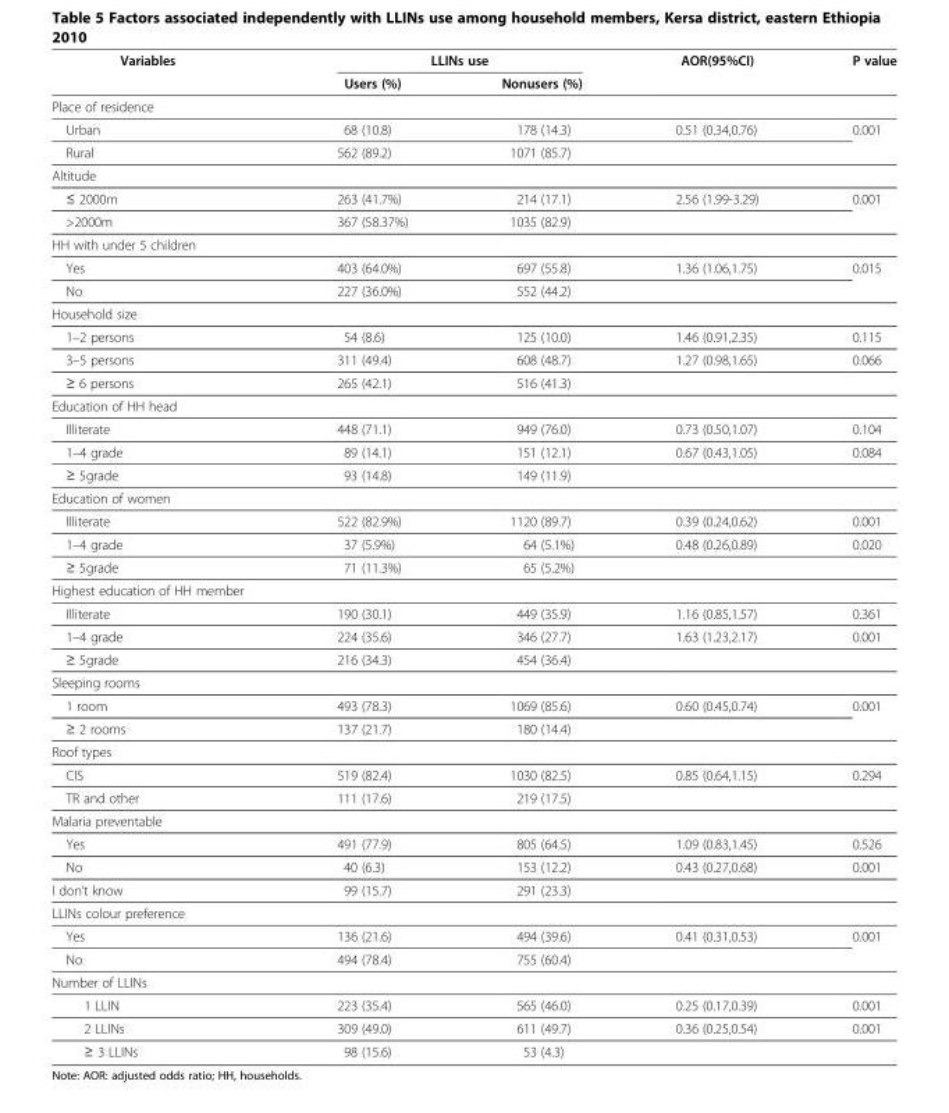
<table><thead><tr><td rowspan="2">Variables</td><td colspan="2">LLINs use</td><td rowspan="2">AOR(95%CI)</td><td rowspan="2">P value</td></tr><tr><td>Users (%)</td><td>Nonusers (%)</td></tr></thead><tbody><tr><td colspan="5">Place of residence</td></tr><tr><td>Urban</td><td>68 (10.8)</td><td>178 (14.3)</td><td>0.51 (0.34,0.76)</td><td>0.001</td></tr><tr><td>Rural</td><td>562 (89.2)</td><td>1071 (85.7)</td><td></td><td></td></tr><tr><td colspan="5">Altitude</td></tr><tr><td>≤ 2000m</td><td>263 (41.7%)</td><td>214 (17.1)</td><td>2.56 (1.99-3.29)</td><td>0.001</td></tr><tr><td>&gt;2000m</td><td>367 (58.37%)</td><td>1035 (82.9)</td><td></td><td></td></tr><tr><td colspan="5">HH with under 5 children</td></tr><tr><td>Yes</td><td>403 (64.0%)</td><td>697 (55.8)</td><td>1.36 (1.06,1.75)</td><td>0.015</td></tr><tr><td>No</td><td>227 (36.0%)</td><td>552 (44.2)</td><td></td><td></td></tr><tr><td colspan="5">Household size</td></tr><tr><td>1–2 persons</td><td>54 (8.6)</td><td>125 (10.0)</td><td>1.46 (0.91,2.35)</td><td>0.115</td></tr><tr><td>3–5 persons</td><td>311 (49.4)</td><td>608 (48.7)</td><td>1.27 (0.98,1.65)</td><td>0.066</td></tr><tr><td>≥ 6 persons</td><td>265 (42.1)</td><td>516 (41.3)</td><td></td><td></td></tr><tr><td colspan="5">Education of HH head</td></tr><tr><td>Illiterate</td><td>448 (71.1)</td><td>949 (76.0)</td><td>0.73 (0.50,1.07)</td><td>0.104</td></tr><tr><td>1–4 grade</td><td>89 (14.1)</td><td>151 (12.1)</td><td>0.67 (0.43,1.05)</td><td>0.084</td></tr><tr><td>≥ 5grade</td><td>93 (14.8)</td><td>149 (11.9)</td><td></td><td></td></tr><tr><td colspan="5">Education of women</td></tr><tr><td>Illiterate</td><td>522 (82.9%)</td><td>1120 (89.7)</td><td>0.39 (0.24,0.62)</td><td>0.001</td></tr><tr><td>1–4 grade</td><td>37 (5.9%)</td><td>64 (5.1%)</td><td>0.48 (0.26,0.89)</td><td>0.020</td></tr><tr><td>≥ 5grade</td><td>71 (11.3%)</td><td>65 (5.2%)</td><td></td><td></td></tr><tr><td colspan="5">Highest education of HH member</td></tr><tr><td>Illiterate</td><td>190 (30.1)</td><td>449 (35.9)</td><td>1.16 (0.85,1.57)</td><td>0.361</td></tr><tr><td>1–4 grade</td><td>224 (35.6)</td><td>346 (27.7)</td><td>1.63 (1.23,2.17)</td><td>0.001</td></tr><tr><td>≥ 5grade</td><td>216 (34.3)</td><td>454 (36.4)</td><td></td><td></td></tr><tr><td colspan="5">Sleeping rooms</td></tr><tr><td>1 room</td><td>493 (78.3)</td><td>1069 (85.6)</td><td>0.60 (0.45,0.74)</td><td>0.001</td></tr><tr><td>≥ 2 rooms</td><td>137 (21.7)</td><td>180 (14.4)</td><td></td><td></td></tr><tr><td colspan="5">Roof types</td></tr><tr><td>CIS</td><td>519 (82.4)</td><td>1030 (82.5)</td><td>0.85 (0.64,1.15)</td><td>0.294</td></tr><tr><td>TR and other</td><td>111 (17.6)</td><td>219 (17.5)</td><td></td><td></td></tr><tr><td colspan="5">Malaria preventable</td></tr><tr><td>Yes</td><td>491 (77.9)</td><td>805 (64.5)</td><td>1.09 (0.83,1.45)</td><td>0.526</td></tr><tr><td>No</td><td>40 (6.3)</td><td>153 (12.2)</td><td>0.43 (0.27,0.68)</td><td>0.001</td></tr><tr><td>I don’t know</td><td>99 (15.7)</td><td>291 (23.3)</td><td></td><td></td></tr><tr><td colspan="5">LLINs colour preference</td></tr><tr><td>Yes</td><td>136 (21.6)</td><td>494 (39.6)</td><td>0.41 (0.31,0.53)</td><td>0.001</td></tr><tr><td>No</td><td>494 (78.4)</td><td>755 (60.4)</td><td></td><td></td></tr><tr><td colspan="5">Number of LLINs</td></tr><tr><td>1 LLIN</td><td>223 (35.4)</td><td>565 (46.0)</td><td>0.25 (0.17,0.39)</td><td>0.001</td></tr><tr><td>2 LLINs</td><td>309 (49.0)</td><td>611 (49.7)</td><td>0.36 (0.25,0.54)</td><td>0.001</td></tr><tr><td>≥ 3 LLINs</td><td>98 (15.6)</td><td>53 (4.3)</td><td></td><td></td></tr></tbody></table>